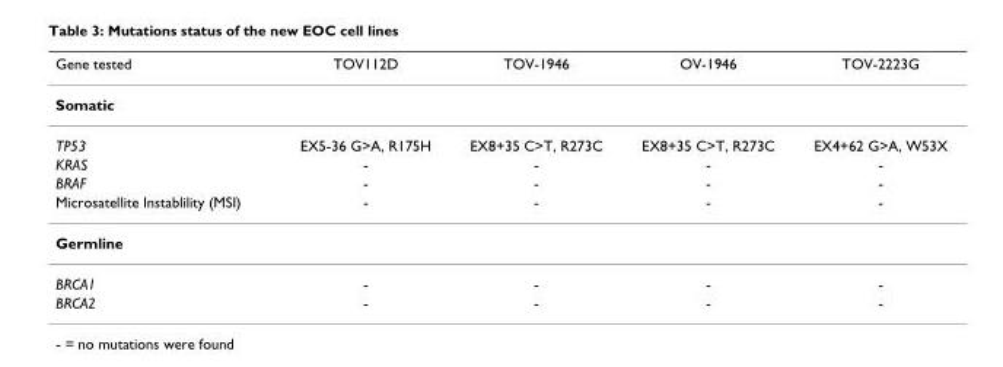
<table><thead><tr><td>Gene tested</td><td>TOV112D</td><td>TOV-1946</td><td>OV-1946</td><td>TOV-2223G</td></tr></thead><tbody><tr><td colspan="5">Somatic</td></tr><tr><td>TP53</td><td>EX5-36 G&gt;A, R175H</td><td>EX8+35 C&gt;T, R273C</td><td>EX8+35 C&gt;T, R273C</td><td>EX4+62 G&gt;A, W53X</td></tr><tr><td>KRAS</td><td>-</td><td>-</td><td>-</td><td>-</td></tr><tr><td>BRAF</td><td>-</td><td>-</td><td>-</td><td>-</td></tr><tr><td>Microsatellite Instablility (MSI)</td><td>-</td><td>-</td><td>-</td><td>-</td></tr><tr><td colspan="5">Germline</td></tr><tr><td>BRCA1</td><td>-</td><td>-</td><td>-</td><td>-</td></tr><tr><td>BRCA2</td><td>-</td><td>-</td><td>-</td><td>-</td></tr></tbody></table>